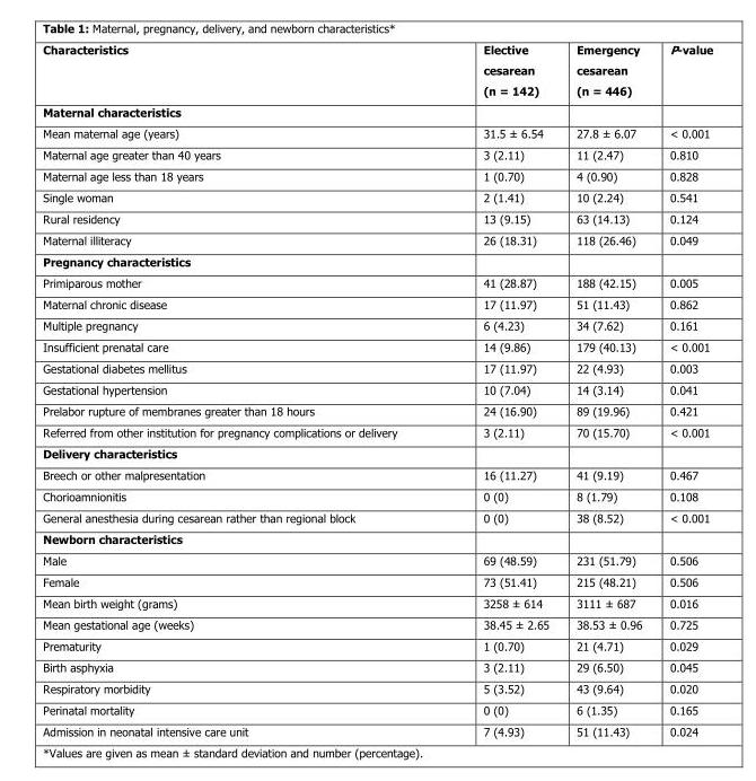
<table><thead><tr><td>Characteristics</td><td>Elective cesarean (n = 142)</td><td>Emergency cesarean (n = 446)</td><td>P-value</td></tr></thead><tbody><tr><td colspan="4">Maternal characteristics</td></tr><tr><td>Mean maternal age (years)</td><td>31.5 ± 6.54</td><td>27.8 ± 6.07</td><td>&lt; 0.001</td></tr><tr><td>Maternal age greater than 40 years</td><td>3 (2.11)</td><td>11 (2.47)</td><td>0.810</td></tr><tr><td>Maternal age less than 18 years</td><td>1 (0.70)</td><td>4 (0.90)</td><td>0.828</td></tr><tr><td>Single woman</td><td>2 (1.41)</td><td>10 (2.24)</td><td>0.541</td></tr><tr><td>Rural residency</td><td>13 (9.15)</td><td>63 (14.13)</td><td>0.124</td></tr><tr><td>Maternal illiteracy</td><td>26 (18.31)</td><td>118 (26.46)</td><td>0.049</td></tr><tr><td colspan="4">Pregnancy characteristics</td></tr><tr><td>Primiparous mother</td><td>41 (28.87)</td><td>188 (42.15)</td><td>0.005</td></tr><tr><td>Maternal chronic disease</td><td>17 (11.97)</td><td>51 (11.43)</td><td>0.862</td></tr><tr><td>Multiple pregnancy</td><td>6 (4.23)</td><td>34 (7.62)</td><td>0.161</td></tr><tr><td>Insufficient prenatal care</td><td>14 (9.86)</td><td>179 (40.13)</td><td>&lt; 0.001</td></tr><tr><td>Gestational diabetes mellitus</td><td>17 (11.97)</td><td>22 (4.93)</td><td>0.003</td></tr><tr><td>Gestational hypertension</td><td>10 (7.04)</td><td>14 (3.14)</td><td>0.041</td></tr><tr><td>Prelabor rupture of membranes greater than 18 hours</td><td>24 (16.90)</td><td>89 (19.96)</td><td>0.421</td></tr><tr><td>Referred from other institution for pregnancy complications or delivery</td><td>3 (2.11)</td><td>70 (15.70)</td><td>&lt; 0.001</td></tr><tr><td colspan="4">Delivery characteristics</td></tr><tr><td>Breech or other malpresentation</td><td>16 (11.27)</td><td>41 (9.19)</td><td>0.467</td></tr><tr><td>Chorioamnionitis</td><td>0 (0)</td><td>8 (1.79)</td><td>0.108</td></tr><tr><td>General anesthesia during cesarean rather than regional block</td><td>0 (0)</td><td>38 (8.52)</td><td>&lt; 0.001</td></tr><tr><td colspan="4">Newborn characteristics</td></tr><tr><td>Male</td><td>69 (48.59)</td><td>231 (51.79)</td><td>0.506</td></tr><tr><td>Female</td><td>73 (51.41)</td><td>215 (48.21)</td><td>0.506</td></tr><tr><td>Mean birth weight (grams)</td><td>3258 ± 614</td><td>3111 ± 687</td><td>0.016</td></tr><tr><td>Mean gestational age (weeks)</td><td>38.45 ± 2.65</td><td>38.53 ± 0.96</td><td>0.725</td></tr><tr><td>Prematurity</td><td>1 (0.70)</td><td>21 (4.71)</td><td>0.029</td></tr><tr><td>Birth asphyxia</td><td>3 (2.11)</td><td>29 (6.50)</td><td>0.045</td></tr><tr><td>Respiratory morbidity</td><td>5 (3.52)</td><td>43 (9.64)</td><td>0.020</td></tr><tr><td>Perinatal mortality</td><td>0 (0)</td><td>6 (1.35)</td><td>0.165</td></tr><tr><td>Admission in neonatal intensive care unit</td><td>7 (4.93)</td><td>51 (11.43)</td><td>0.024</td></tr></tbody></table>